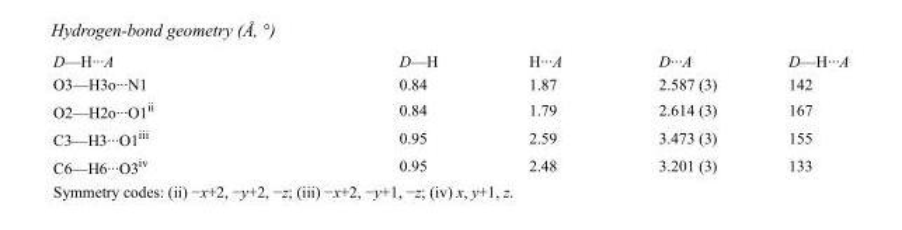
<table><tbody><tr><td>D—H···A</td><td>D—H</td><td>H···A</td><td>D···A</td><td>D—H···A</td></tr><tr><td>O3—H3o···N1</td><td>0.84</td><td>1.87</td><td>2.587 (3)</td><td>142</td></tr><tr><td>O2—H2o···O1<sup>ii</sup></td><td>0.84</td><td>1.79</td><td>2.614 (3)</td><td>167</td></tr><tr><td>C3—H3···O1<sup>iii</sup></td><td>0.95</td><td>2.59</td><td>3.473 (3)</td><td>155</td></tr><tr><td>C6—H6···O3<sup>iv</sup></td><td>0.95</td><td>2.48</td><td>3.201 (3)</td><td>133</td></tr></tbody></table>